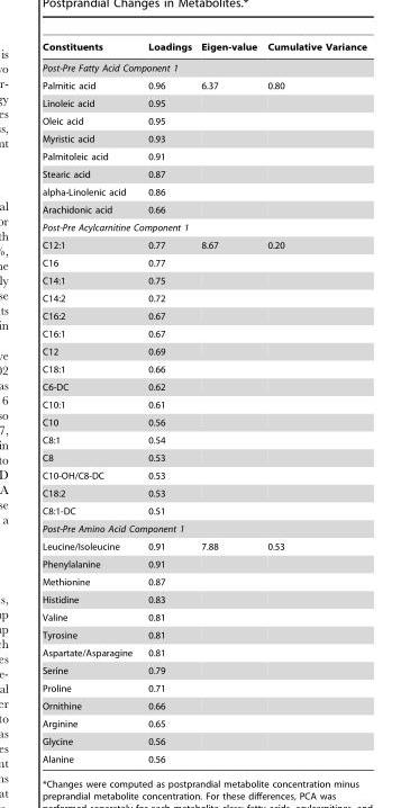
<table><thead><tr><td>Constituents</td><td>Loadings</td><td>Eigen-value</td><td>Cumulative Variance</td></tr></thead><tbody><tr><td colspan="4">Post-Pre Fatty Acid Component 1</td></tr><tr><td>Palmitic acid</td><td>0.96</td><td>6.37</td><td>0.80</td></tr><tr><td>Linoleic acid</td><td>0.95</td><td></td><td></td></tr><tr><td>Oleic acid</td><td>0.95</td><td></td><td></td></tr><tr><td>Myristic acid</td><td>0.93</td><td></td><td></td></tr><tr><td>Palmitoleic acid</td><td>0.91</td><td></td><td></td></tr><tr><td>Stearic acid</td><td>0.87</td><td></td><td></td></tr><tr><td>alpha-Linolenic acid</td><td>0.86</td><td></td><td></td></tr><tr><td>Arachidonic acid</td><td>0.66</td><td></td><td></td></tr><tr><td colspan="4">Post-Pre Acylcarnitine Component 1</td></tr><tr><td>C12:1</td><td>0.77</td><td>8.67</td><td>0.20</td></tr><tr><td>C16</td><td>0.77</td><td></td><td></td></tr><tr><td>C14:1</td><td>0.75</td><td></td><td></td></tr><tr><td>C14:2</td><td>0.72</td><td></td><td></td></tr><tr><td>C16:2</td><td>0.67</td><td></td><td></td></tr><tr><td>C16:1</td><td>0.67</td><td></td><td></td></tr><tr><td>C12</td><td>0.69</td><td></td><td></td></tr><tr><td>C18:1</td><td>0.66</td><td></td><td></td></tr><tr><td>C6-DC</td><td>0.62</td><td></td><td></td></tr><tr><td>C10:1</td><td>0.61</td><td></td><td></td></tr><tr><td>C10</td><td>0.56</td><td></td><td></td></tr><tr><td>C8:1</td><td>0.54</td><td></td><td></td></tr><tr><td>C8</td><td>0.53</td><td></td><td></td></tr><tr><td>C10-OH/C8-DC</td><td>0.53</td><td></td><td></td></tr><tr><td>C18:2</td><td>0.53</td><td></td><td></td></tr><tr><td>C8:1-DC</td><td>0.51</td><td></td><td></td></tr><tr><td colspan="4">Post-Pre Amino Acid Component 1</td></tr><tr><td>Leucine/Isoleucine</td><td>0.91</td><td>7.88</td><td>0.53</td></tr><tr><td>Phenylalanine</td><td>0.91</td><td></td><td></td></tr><tr><td>Methionine</td><td>0.87</td><td></td><td></td></tr><tr><td>Histidine</td><td>0.83</td><td></td><td></td></tr><tr><td>Valine</td><td>0.81</td><td></td><td></td></tr><tr><td>Tyrosine</td><td>0.81</td><td></td><td></td></tr><tr><td>Aspartate/Asparagine</td><td>0.81</td><td></td><td></td></tr><tr><td>Serine</td><td>0.79</td><td></td><td></td></tr><tr><td>Proline</td><td>0.71</td><td></td><td></td></tr><tr><td>Ornithine</td><td>0.66</td><td></td><td></td></tr><tr><td>Arginine</td><td>0.65</td><td></td><td></td></tr><tr><td>Glycine</td><td>0.56</td><td></td><td></td></tr><tr><td>Alanine</td><td>0.56</td><td></td><td></td></tr></tbody></table>